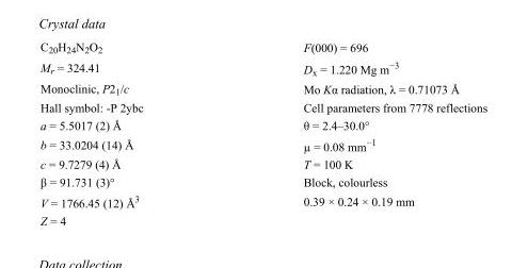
<table><tbody><tr><td>C<sub>20</sub>H<sub>24</sub>N<sub>2</sub>O<sub>2</sub></td><td>F(000) = 696</td></tr><tr><td>M<sub>r</sub> = 324.41</td><td>D<sub>x</sub> = 1.220 Mg m<sup>−3</sup></td></tr><tr><td>Monoclinic, P2<sub>1</sub>/c</td><td>Mo Kα radiation, λ = 0.71073 Å</td></tr><tr><td>Hall symbol: -P 2ybc</td><td>Cell parameters from 7778 reflections</td></tr><tr><td>a = 5.5017 (2) Å</td><td>θ = 2.4–30.0°</td></tr><tr><td>b = 33.0204 (14) Å</td><td>µ = 0.08 mm<sup>−1</sup></td></tr><tr><td>c = 9.7279 (4) Å</td><td>T = 100 K</td></tr><tr><td>β = 91.731 (3)°</td><td>Block, colourless</td></tr><tr><td>V = 1766.45 (12) Å<sup>3</sup></td><td>0.39 × 0.24 × 0.19 mm</td></tr><tr><td>Z = 4</td><td></td></tr></tbody></table>